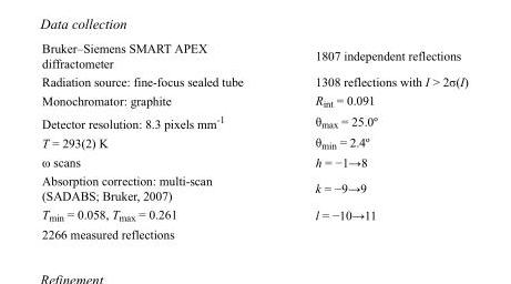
<table><tbody><tr><td>Bruker–Siemens SMART APEX diffractometer</td><td>1807 independent reflections</td></tr><tr><td>Radiation source: fine-focus sealed tube</td><td>1308 reflections with I &gt; 2σ(I)</td></tr><tr><td>Monochromator: graphite</td><td>R<sub>int</sub> = 0.091</td></tr><tr><td>Detector resolution: 8.3 pixels mm<sup>-1</sup></td><td>θ<sub>max</sub> = 25.0º</td></tr><tr><td>T = 293(2) K</td><td>θ<sub>min</sub> = 2.4º</td></tr><tr><td>ω scans</td><td>h = −1→8</td></tr><tr><td>Absorption correction: multi-scan (SADABS; Bruker, 2007)</td><td>k = −9→9</td></tr><tr><td>T<sub>min</sub> = 0.058, T<sub>max</sub> = 0.261</td><td>l = −10→11</td></tr><tr><td>2266 measured reflections</td><td></td></tr></tbody></table>